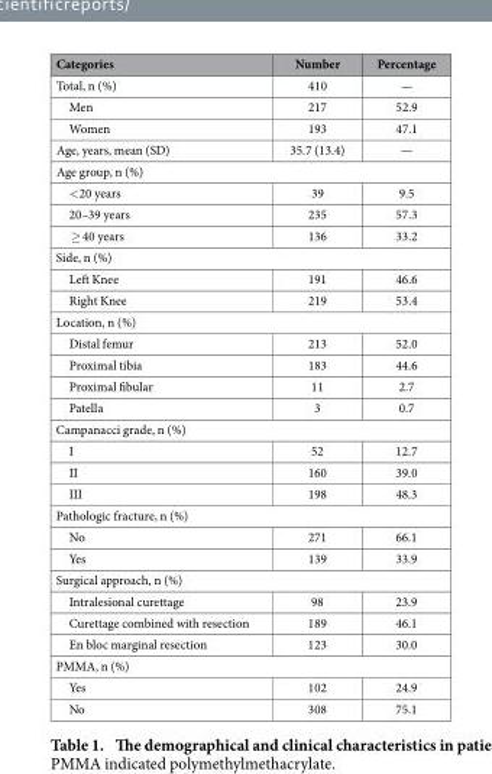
<table><thead><tr><td>Categories</td><td>Number</td><td>Percentage</td></tr></thead><tbody><tr><td>Total, n (%)</td><td>410</td><td>—</td></tr><tr><td>Men</td><td>217</td><td>52.9</td></tr><tr><td>Women</td><td>193</td><td>47.1</td></tr><tr><td>Age, years, mean (SD)</td><td>35.7 (13.4)</td><td>—</td></tr><tr><td colspan="3">Age group, n (%)</td></tr><tr><td>&lt; 20 years</td><td>39</td><td>9.5</td></tr><tr><td>20–39 years</td><td>235</td><td>57.3</td></tr><tr><td>≥ 40 years</td><td>136</td><td>33.2</td></tr><tr><td colspan="3">Side, n (%)</td></tr><tr><td>Left Knee</td><td>191</td><td>46.6</td></tr><tr><td>Right Knee</td><td>219</td><td>53.4</td></tr><tr><td colspan="3">Location, n (%)</td></tr><tr><td>Distal femur</td><td>213</td><td>52.0</td></tr><tr><td>Proximal tibia</td><td>183</td><td>44.6</td></tr><tr><td>Proximal fibular</td><td>11</td><td>2.7</td></tr><tr><td>Patella</td><td>3</td><td>0.7</td></tr><tr><td colspan="3">Campanacci grade, n (%)</td></tr><tr><td>I</td><td>52</td><td>12.7</td></tr><tr><td>II</td><td>160</td><td>39.0</td></tr><tr><td>III</td><td>198</td><td>48.3</td></tr><tr><td colspan="3">Pathologic fracture, n (%)</td></tr><tr><td>No</td><td>271</td><td>66.1</td></tr><tr><td>Yes</td><td>139</td><td>33.9</td></tr><tr><td colspan="3">Surgical approach, n (%)</td></tr><tr><td>Intralesional curettage</td><td>98</td><td>23.9</td></tr><tr><td>Curettage combined with resection</td><td>189</td><td>46.1</td></tr><tr><td>En bloc marginal resection</td><td>123</td><td>30.0</td></tr><tr><td colspan="3">PMMA, n (%)</td></tr><tr><td>Yes</td><td>102</td><td>24.9</td></tr><tr><td>No</td><td>308</td><td>75.1</td></tr></tbody></table>